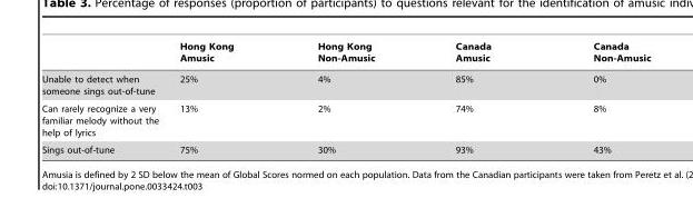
<table><thead><tr><td></td><td>Hong Kong Amusic</td><td>Hong Kong Non-Amusic</td><td>Canada Amusic</td><td>Canada Non-Amusic</td></tr></thead><tbody><tr><td>Unable to detect when someone sings out-of-tune</td><td>25%</td><td>4%</td><td>85%</td><td>0%</td></tr><tr><td>Can rarely recognize a very familiar melody without the help of lyrics</td><td>13%</td><td>2%</td><td>74%</td><td>8%</td></tr><tr><td>Sings out-of-tune</td><td>75%</td><td>30%</td><td>93%</td><td>43%</td></tr></tbody></table>